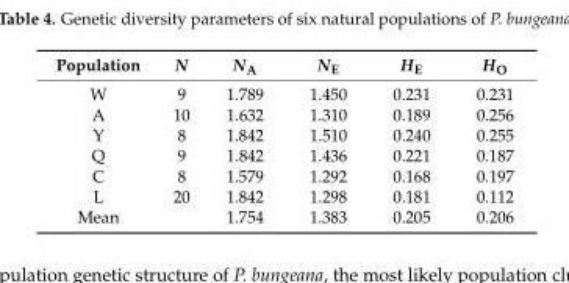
<table><thead><tr><td>Population</td><td>N</td><td>N<sub>A</sub></td><td>N<sub>E</sub></td><td>H<sub>E</sub></td><td>H<sub>O</sub></td></tr></thead><tbody><tr><td>W</td><td>9</td><td>1.789</td><td>1.450</td><td>0.231</td><td>0.231</td></tr><tr><td>A</td><td>10</td><td>1.632</td><td>1.310</td><td>0.189</td><td>0.256</td></tr><tr><td>Y</td><td>8</td><td>1.842</td><td>1.510</td><td>0.240</td><td>0.255</td></tr><tr><td>Q</td><td>9</td><td>1.842</td><td>1.436</td><td>0.221</td><td>0.187</td></tr><tr><td>C</td><td>8</td><td>1.579</td><td>1.292</td><td>0.168</td><td>0.197</td></tr><tr><td>L</td><td>20</td><td>1.842</td><td>1.298</td><td>0.181</td><td>0.112</td></tr><tr><td>Mean</td><td></td><td>1.754</td><td>1.383</td><td>0.205</td><td>0.206</td></tr></tbody></table>